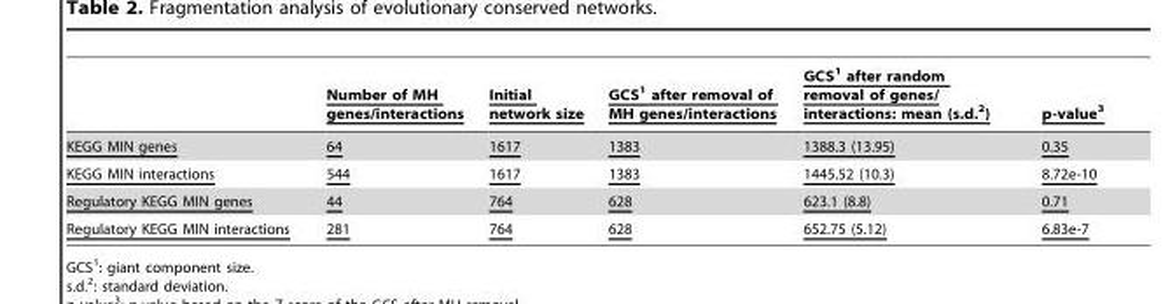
<table><thead><tr><td></td><td>Number of MH genes/interactions</td><td>Initial network size</td><td>GCS<sup>1</sup> after removal of MH genes/interactions</td><td>GCS<sup>1</sup> after random removal of genes/ interactions: mean (s.d.<sup>2</sup>)</td><td>p-value<sup>3</sup></td></tr></thead><tbody><tr><td>KEGG MIN genes</td><td>64</td><td>1617</td><td>1383</td><td>1388.3 (13.95)</td><td>0.35</td></tr><tr><td>KEGG MIN interactions</td><td>544</td><td>1617</td><td>1383</td><td>1445.52 (10.3)</td><td>8.72e-10</td></tr><tr><td>Regulatory KEGG MIN genes</td><td>44</td><td>764</td><td>628</td><td>623.1 (8.8)</td><td>0.71</td></tr><tr><td>Regulatory KEGG MIN interactions</td><td>281</td><td>764</td><td>628</td><td>652.75 (5.12)</td><td>6.83e-7</td></tr></tbody></table>